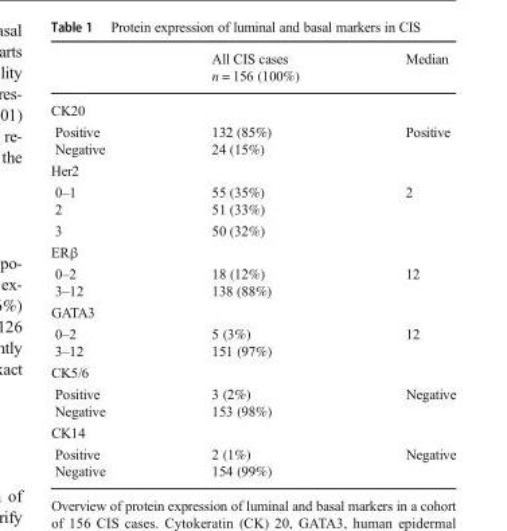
<table><thead><tr><td rowspan="2"></td><td rowspan="2">All CIS cases n = 156 (100%)</td><td rowspan="2">Median</td></tr><tr></tr></thead><tbody><tr><td colspan="3">CK20</td></tr><tr><td>Positive</td><td>132 (85%)</td><td rowspan="2">Positive</td></tr><tr><td>Negative</td><td>24 (15%)</td></tr><tr><td colspan="3">Her2</td></tr><tr><td>0–1</td><td>55 (35%)</td><td rowspan="3">2</td></tr><tr><td>2</td><td>51 (33%)</td></tr><tr><td>3</td><td>50 (32%)</td></tr><tr><td colspan="3">ERβ</td></tr><tr><td>0–2</td><td>18 (12%)</td><td rowspan="2">12</td></tr><tr><td>3–12</td><td>138 (88%)</td></tr><tr><td colspan="3">GATA3</td></tr><tr><td>0–2</td><td>5 (3%)</td><td rowspan="2">12</td></tr><tr><td>3–12</td><td>151 (97%)</td></tr><tr><td colspan="3">CK5/6</td></tr><tr><td>Positive</td><td>3 (2%)</td><td rowspan="2">Negative</td></tr><tr><td>Negative</td><td>153 (98%)</td></tr><tr><td colspan="3">CK14</td></tr><tr><td>Positive</td><td>2 (1%)</td><td rowspan="2">Negative</td></tr><tr><td>Negative</td><td>154 (99%)</td></tr></tbody></table>